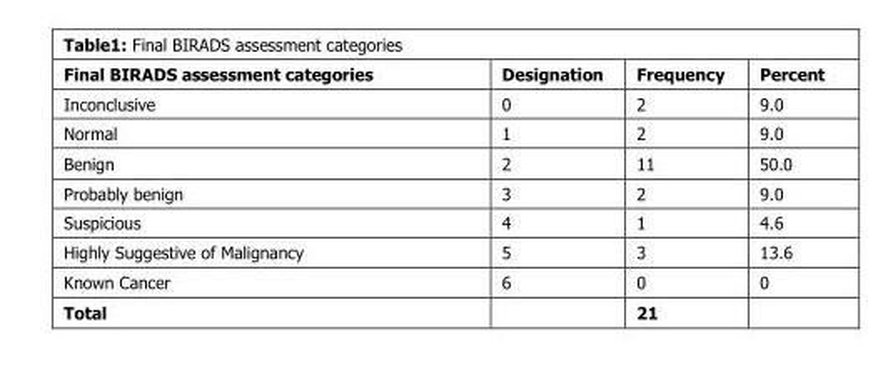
<table><thead><tr><td>Final BIRADS assessment categories</td><td>Designation</td><td>Frequency</td><td>Percent</td></tr></thead><tbody><tr><td>Inconclusive</td><td>0</td><td>2</td><td>9.0</td></tr><tr><td>Normal</td><td>1</td><td>2</td><td>9.0</td></tr><tr><td>Benign</td><td>2</td><td>11</td><td>50.0</td></tr><tr><td>Probably benign</td><td>3</td><td>2</td><td>9.0</td></tr><tr><td>Suspicious</td><td>4</td><td>1</td><td>4.6</td></tr><tr><td>Highly Suggestive of Malignancy</td><td>5</td><td>3</td><td>13.6</td></tr><tr><td>Known Cancer</td><td>6</td><td>0</td><td>0</td></tr><tr><td>Total</td><td></td><td>21</td><td></td></tr></tbody></table>